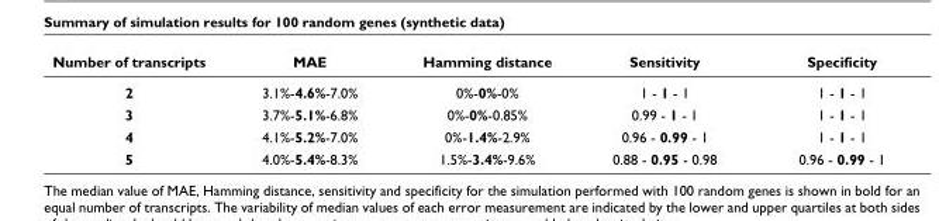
<table><thead><tr><td>Number of transcripts</td><td>MAE</td><td>Hamming distance</td><td>Sensitivity</td><td>Specificity</td></tr></thead><tbody><tr><td>2</td><td>3.1%-4.6%-7.0%</td><td>0%-0%-0%</td><td>1 - 1 - 1</td><td>1 - 1 - 1</td></tr><tr><td>3</td><td>3.7%-5.1%-6.8%</td><td>0%-0%-0.85%</td><td>0.99 - 1 - 1</td><td>1 - 1 - 1</td></tr><tr><td>4</td><td>4.1%-5.2%-7.0%</td><td>0%-1.4%-2.9%</td><td>0.96 - 0.99 - 1</td><td>1 - 1 - 1</td></tr><tr><td>5</td><td>4.0%-5.4%-8.3%</td><td>1.5%-3.4%-9.6%</td><td>0.88 - 0.95 - 0.98</td><td>0.96 - 0.99 - 1</td></tr></tbody></table>